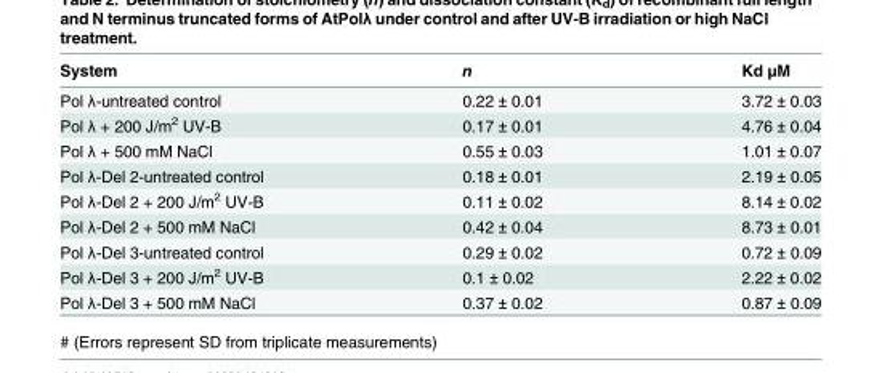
<table><thead><tr><td>System</td><td>n</td><td>Kd μM</td></tr></thead><tbody><tr><td>Pol λ-untreated control</td><td>0.22 ± 0.01</td><td>3.72 ± 0.03</td></tr><tr><td>Pol λ + 200 J/m<sup>2</sup> UV-B</td><td>0.17 ± 0.01</td><td>4.76 ± 0.04</td></tr><tr><td>Pol λ + 500 mM NaCl</td><td>0.55 ± 0.03</td><td>1.01 ± 0.07</td></tr><tr><td>Pol λ-Del 2-untreated control</td><td>0.18 ± 0.01</td><td>2.19 ± 0.05</td></tr><tr><td>Pol λ-Del 2 + 200 J/m<sup>2</sup> UV-B</td><td>0.11 ± 0.02</td><td>8.14 ± 0.02</td></tr><tr><td>Pol λ-Del 2 + 500 mM NaCl</td><td>0.42 ± 0.04</td><td>8.73 ± 0.01</td></tr><tr><td>Pol λ-Del 3-untreated control</td><td>0.29 ± 0.02</td><td>0.72 ± 0.09</td></tr><tr><td>Pol λ-Del 3 + 200 J/m<sup>2</sup> UV-B</td><td>0.1 ± 0.02</td><td>2.22 ± 0.02</td></tr><tr><td>Pol λ-Del 3 + 500 mM NaCl</td><td>0.37 ± 0.02</td><td>0.87 ± 0.09</td></tr></tbody></table>